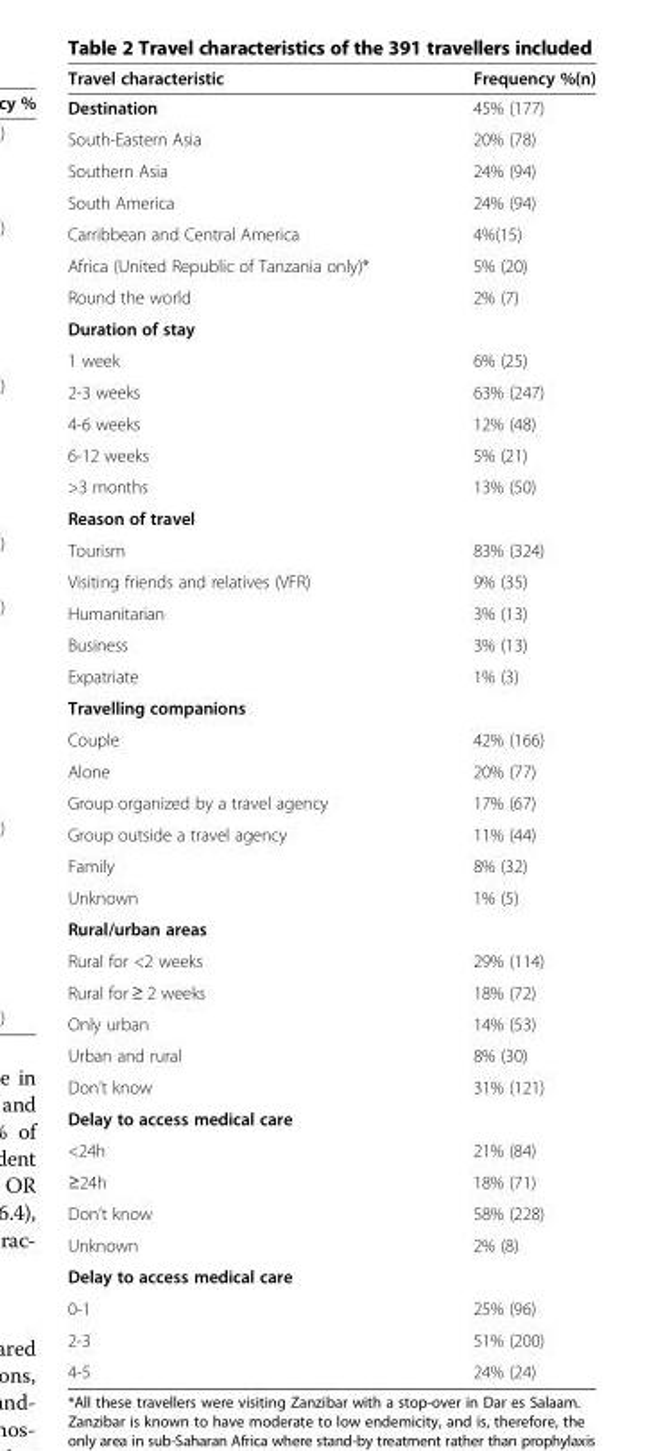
<table><thead><tr><td>Travel characteristic</td><td>Frequency %(n)</td></tr></thead><tbody><tr><td>Destination</td><td>45% (177)</td></tr><tr><td>South-Eastern Asia</td><td>20% (78)</td></tr><tr><td>Southern Asia</td><td>24% (94)</td></tr><tr><td>South America</td><td>24% (94)</td></tr><tr><td>Carribbean and Central America</td><td>4%(15)</td></tr><tr><td>Africa (United Republic of Tanzania only)*</td><td>5% (20)</td></tr><tr><td>Round the world</td><td>2% (7)</td></tr><tr><td colspan="2">Duration of stay</td></tr><tr><td>1 week</td><td>6% (25)</td></tr><tr><td>2-3 weeks</td><td>63% (247)</td></tr><tr><td>4-6 weeks</td><td>12% (48)</td></tr><tr><td>6-12 weeks</td><td>5% (21)</td></tr><tr><td>&gt;3 months</td><td>13% (50)</td></tr><tr><td colspan="2">Reason of travel</td></tr><tr><td>Tourism</td><td>83% (324)</td></tr><tr><td>Visiting friends and relatives (VFR)</td><td>9% (35)</td></tr><tr><td>Humanitarian</td><td>3% (13)</td></tr><tr><td>Business</td><td>3% (13)</td></tr><tr><td>Expatriate</td><td>1% (3)</td></tr><tr><td colspan="2">Travelling companions</td></tr><tr><td>Couple</td><td>42% (166)</td></tr><tr><td>Alone</td><td>20% (77)</td></tr><tr><td>Group organized by a travel agency</td><td>17% (67)</td></tr><tr><td>Group outside a travel agency</td><td>11% (44)</td></tr><tr><td>Family</td><td>8% (32)</td></tr><tr><td>Unknown</td><td>1% (5)</td></tr><tr><td colspan="2">Rural/urban areas</td></tr><tr><td>Rural for &lt;2 weeks</td><td>29% (114)</td></tr><tr><td>Rural for ≥ 2 weeks</td><td>18% (72)</td></tr><tr><td>Only urban</td><td>14% (53)</td></tr><tr><td>Urban and rural</td><td>8% (30)</td></tr><tr><td>Don’t know</td><td>31% (121)</td></tr><tr><td colspan="2">Delay to access medical care</td></tr><tr><td>&lt;24h</td><td>21% (84)</td></tr><tr><td>≥24h</td><td>18% (71)</td></tr><tr><td>Don’t know</td><td>58% (228)</td></tr><tr><td>Unknown</td><td>2% (8)</td></tr><tr><td colspan="2">Delay to access medical care</td></tr><tr><td>0-1</td><td>25% (96)</td></tr><tr><td>2-3</td><td>51% (200)</td></tr><tr><td>4-5</td><td>24% (24)</td></tr></tbody></table>